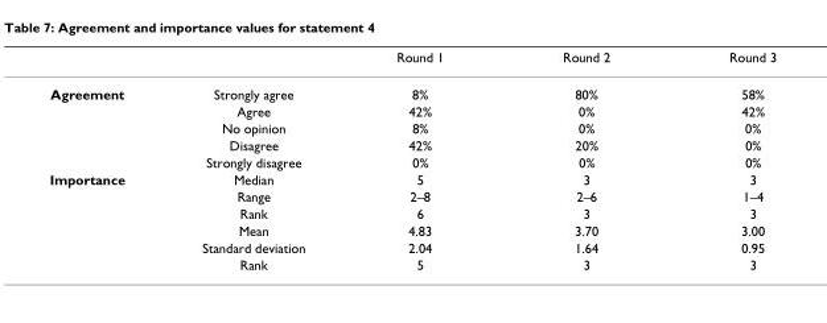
<table><thead><tr><td></td><td></td><td>Round 1</td><td>Round 2</td><td>Round 3</td></tr></thead><tbody><tr><td rowspan="5">Agreement</td><td>Strongly agree</td><td>8%</td><td>80%</td><td>58%</td></tr><tr><td>Agree</td><td>42%</td><td>0%</td><td>42%</td></tr><tr><td>No opinion</td><td>8%</td><td>0%</td><td>0%</td></tr><tr><td>Disagree</td><td>42%</td><td>20%</td><td>0%</td></tr><tr><td>Strongly disagree</td><td>0%</td><td>0%</td><td>0%</td></tr><tr><td rowspan="6">Importance</td><td>Median</td><td>5</td><td>3</td><td>3</td></tr><tr><td>Range</td><td>2–8</td><td>2–6</td><td>1–4</td></tr><tr><td>Rank</td><td>6</td><td>3</td><td>3</td></tr><tr><td>Mean</td><td>4.83</td><td>3.70</td><td>3.00</td></tr><tr><td>Standard deviation</td><td>2.04</td><td>1.64</td><td>0.95</td></tr><tr><td>Rank</td><td>5</td><td>3</td><td>3</td></tr></tbody></table>